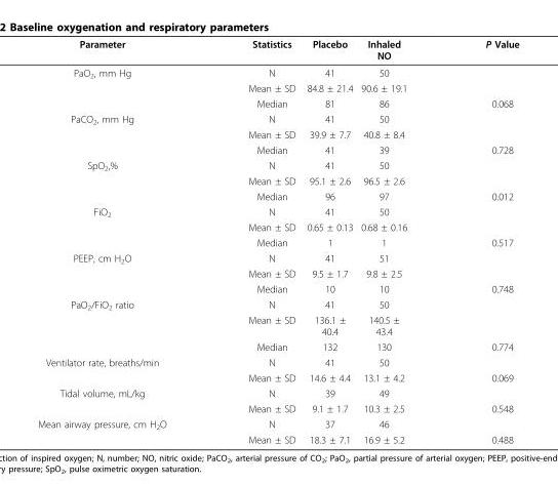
<table><thead><tr><td>Parameter</td><td>Statistics</td><td>Placebo</td><td>Inhaled NO</td><td>P Value</td></tr></thead><tbody><tr><td rowspan="3">PaO<sub>2</sub>, mm Hg</td><td>N</td><td>41</td><td>50</td><td></td></tr><tr><td>Mean ± SD</td><td>84.8 ± 21.4</td><td>90.6 ± 19.1</td><td></td></tr><tr><td>Median</td><td>81</td><td>86</td><td>0.068</td></tr><tr><td rowspan="3">PaCO<sub>2</sub>, mm Hg</td><td>N</td><td>41</td><td>50</td><td></td></tr><tr><td>Mean ± SD</td><td>39.9 ± 7.7</td><td>40.8 ± 8.4</td><td></td></tr><tr><td>Median</td><td>41</td><td>39</td><td>0.728</td></tr><tr><td rowspan="3">SpO<sub>2</sub>,%</td><td>N</td><td>41</td><td>50</td><td></td></tr><tr><td>Mean ± SD</td><td>95.1 ± 2.6</td><td>96.5 ± 2.6</td><td></td></tr><tr><td>Median</td><td>96</td><td>97</td><td>0.012</td></tr><tr><td rowspan="3">FiO<sub>2</sub></td><td>N</td><td>41</td><td>50</td><td></td></tr><tr><td>Mean ± SD</td><td>0.65 ± 0.13</td><td>0.68 ± 0.16</td><td></td></tr><tr><td>Median</td><td>1</td><td>1</td><td>0.517</td></tr><tr><td rowspan="3">PEEP, cm H<sub>2</sub>O</td><td>N</td><td>41</td><td>51</td><td></td></tr><tr><td>Mean ± SD</td><td>9.5 ± 1.7</td><td>9.8 ± 2.5</td><td></td></tr><tr><td>Median</td><td>10</td><td>10</td><td>0.748</td></tr><tr><td rowspan="3">PaO<sub>2</sub>/FiO<sub>2</sub> ratio</td><td>N</td><td>41</td><td>50</td><td></td></tr><tr><td>Mean ± SD</td><td>136.1 ± 40.4</td><td>140.5 ± 43.4</td><td></td></tr><tr><td>Median</td><td>132</td><td>130</td><td>0.774</td></tr><tr><td rowspan="2">Ventilator rate, breaths/min</td><td>N</td><td>41</td><td>50</td><td></td></tr><tr><td>Mean ± SD</td><td>14.6 ± 4.4</td><td>13.1 ± 4.2</td><td>0.069</td></tr><tr><td rowspan="2">Tidal volume, mL/kg</td><td>N</td><td>39</td><td>49</td><td></td></tr><tr><td>Mean ± SD</td><td>9.1 ± 1.7</td><td>10.3 ± 2.5</td><td>0.548</td></tr><tr><td rowspan="2">Mean airway pressure, cm H<sub>2</sub>O</td><td>N</td><td>37</td><td>46</td><td></td></tr><tr><td>Mean ± SD</td><td>18.3 ± 7.1</td><td>16.9 ± 5.2</td><td>0.488</td></tr></tbody></table>